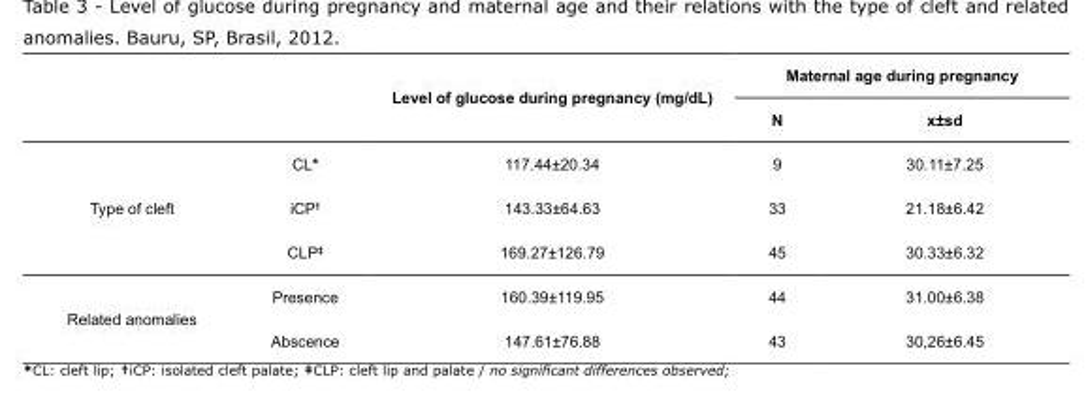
<table><tbody><tr><td rowspan="2" colspan="3">Level of glucose during pregnancy (mg/dL)</td><td colspan="2">Maternal age during pregnancy</td></tr><tr><td>N</td><td>x±sd</td></tr><tr><td rowspan="3">Type of cleft</td><td>CL*</td><td>117.44±20.34</td><td>9</td><td>30.11±7.25</td></tr><tr><td>iCP<sup>†</sup></td><td>143.33±64.63</td><td>33</td><td>21.18±6.42</td></tr><tr><td>CLP<sup>‡</sup></td><td>169.27±126.79</td><td>45</td><td>30.33±6.32</td></tr><tr><td rowspan="2">Related anomalies</td><td>Presence</td><td>160.39±119.95</td><td>44</td><td>31.00±6.38</td></tr><tr><td>Abscence</td><td>147.61±76.88</td><td>43</td><td>30,26±6.45</td></tr></tbody></table>